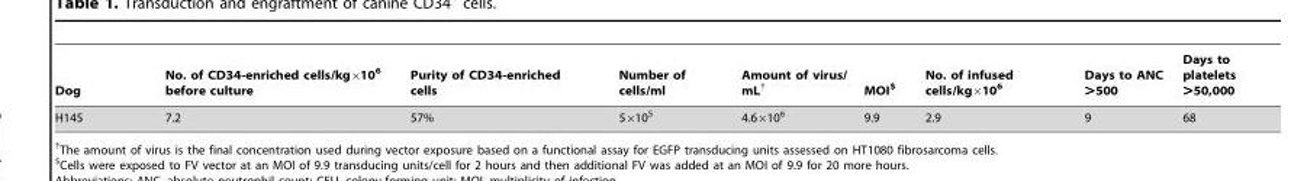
<table><thead><tr><td>Dog</td><td>No. of CD34-enriched cells/kg×10<sup>6</sup> before culture</td><td>Purity of CD34-enriched cells</td><td>Number of cells/ml</td><td>Amount of virus/ mL†</td><td>MOI$</td><td>No. of infused cells/kg×10<sup>6</sup></td><td>Days to ANC &gt;500</td><td>Days to platelets &gt;50,000</td></tr></thead><tbody><tr><td>H145</td><td>7.2</td><td>57%</td><td>5×10<sup>5</sup></td><td>4.6×10<sup>6</sup></td><td>9.9</td><td>2.9</td><td>9</td><td>68</td></tr></tbody></table>